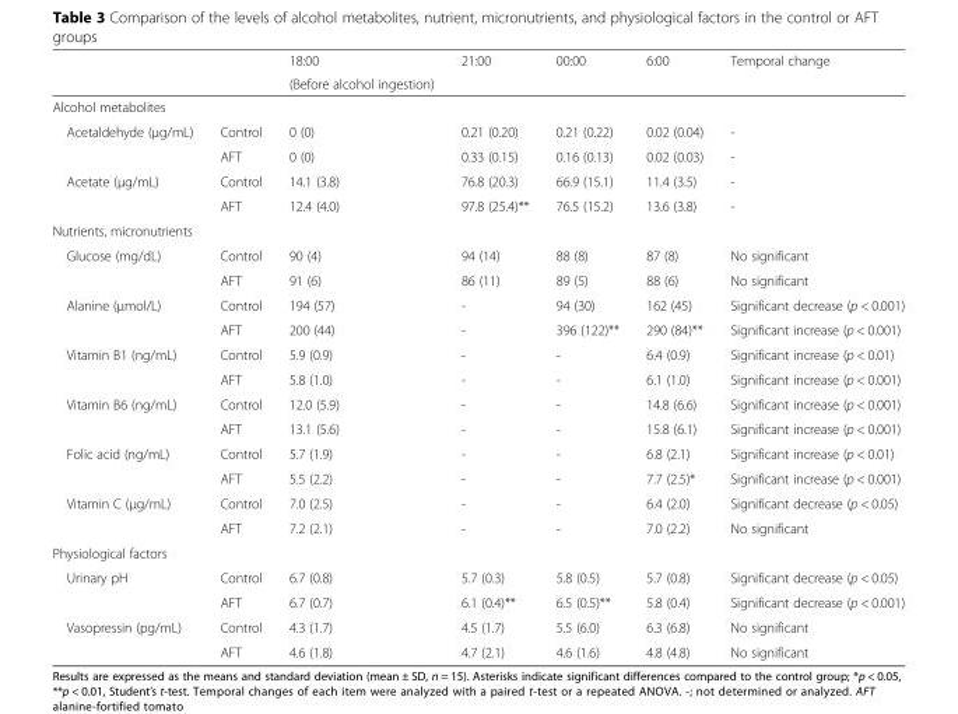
<table><thead><tr><td rowspan="2"></td><td rowspan="2"></td><td rowspan="2">18:00 (Before alcohol ingestion)</td><td rowspan="2">21:00</td><td rowspan="2">00:00</td><td rowspan="2">6:00</td><td rowspan="2">Temporal change</td></tr><tr></tr></thead><tbody><tr><td colspan="7">Alcohol metabolites</td></tr><tr><td rowspan="2">Acetaldehyde (μg/mL)</td><td>Control</td><td>0 (0)</td><td>0.21 (0.20)</td><td>0.21 (0.22)</td><td>0.02 (0.04)</td><td>-</td></tr><tr><td>AFT</td><td>0 (0)</td><td>0.33 (0.15)</td><td>0.16 (0.13)</td><td>0.02 (0.03)</td><td>-</td></tr><tr><td rowspan="2">Acetate (μg/mL)</td><td>Control</td><td>14.1 (3.8)</td><td>76.8 (20.3)</td><td>66.9 (15.1)</td><td>11.4 (3.5)</td><td>-</td></tr><tr><td>AFT</td><td>12.4 (4.0)</td><td>97.8 (25.4)**</td><td>76.5 (15.2)</td><td>13.6 (3.8)</td><td>-</td></tr><tr><td colspan="7">Nutrients, micronutrients</td></tr><tr><td rowspan="2">Glucose (mg/dL)</td><td>Control</td><td>90 (4)</td><td>94 (14)</td><td>88 (8)</td><td>87 (8)</td><td>No significant</td></tr><tr><td>AFT</td><td>91 (6)</td><td>86 (11)</td><td>89 (5)</td><td>88 (6)</td><td>No significant</td></tr><tr><td rowspan="2">Alanine (μmol/L)</td><td>Control</td><td>194 (57)</td><td>-</td><td>94 (30)</td><td>162 (45)</td><td>Significant decrease (p &lt; 0.001)</td></tr><tr><td>AFT</td><td>200 (44)</td><td>-</td><td>396 (122)**</td><td>290 (84)**</td><td>Significant increase (p &lt; 0.001)</td></tr><tr><td rowspan="2">Vitamin B1 (ng/mL)</td><td>Control</td><td>5.9 (0.9)</td><td>-</td><td>-</td><td>6.4 (0.9)</td><td>Significant increase (p &lt; 0.01)</td></tr><tr><td>AFT</td><td>5.8 (1.0)</td><td>-</td><td>-</td><td>6.1 (1.0)</td><td>Significant increase (p &lt; 0.001)</td></tr><tr><td rowspan="2">Vitamin B6 (ng/mL)</td><td>Control</td><td>12.0 (5.9)</td><td>-</td><td>-</td><td>14.8 (6.6)</td><td>Significant increase (p &lt; 0.001)</td></tr><tr><td>AFT</td><td>13.1 (5.6)</td><td>-</td><td>-</td><td>15.8 (6.1)</td><td>Significant increase (p &lt; 0.001)</td></tr><tr><td rowspan="2">Folic acid (ng/mL)</td><td>Control</td><td>5.7 (1.9)</td><td>-</td><td>-</td><td>6.8 (2.1)</td><td>Significant increase (p &lt; 0.01)</td></tr><tr><td>AFT</td><td>5.5 (2.2)</td><td>-</td><td>-</td><td>7.7 (2.5)*</td><td>Significant increase (p &lt; 0.001)</td></tr><tr><td rowspan="2">Vitamin C (μg/mL)</td><td>Control</td><td>7.0 (2.5)</td><td>-</td><td>-</td><td>6.4 (2.0)</td><td>Significant decrease (p &lt; 0.05)</td></tr><tr><td>AFT</td><td>7.2 (2.1)</td><td>-</td><td>-</td><td>7.0 (2.2)</td><td>No significant</td></tr><tr><td colspan="7">Physiological factors</td></tr><tr><td rowspan="2">Urinary pH</td><td>Control</td><td>6.7 (0.8)</td><td>5.7 (0.3)</td><td>5.8 (0.5)</td><td>5.7 (0.8)</td><td>Significant decrease (p &lt; 0.05)</td></tr><tr><td>AFT</td><td>6.7 (0.7)</td><td>6.1 (0.4)**</td><td>6.5 (0.5)**</td><td>5.8 (0.4)</td><td>Significant decrease (p &lt; 0.001)</td></tr><tr><td rowspan="2">Vasopressin (pg/mL)</td><td>Control</td><td>4.3 (1.7)</td><td>4.5 (1.7)</td><td>5.5 (6.0)</td><td>6.3 (6.8)</td><td>No significant</td></tr><tr><td>AFT</td><td>4.6 (1.8)</td><td>4.7 (2.1)</td><td>4.6 (1.6)</td><td>4.8 (4.8)</td><td>No significant</td></tr></tbody></table>